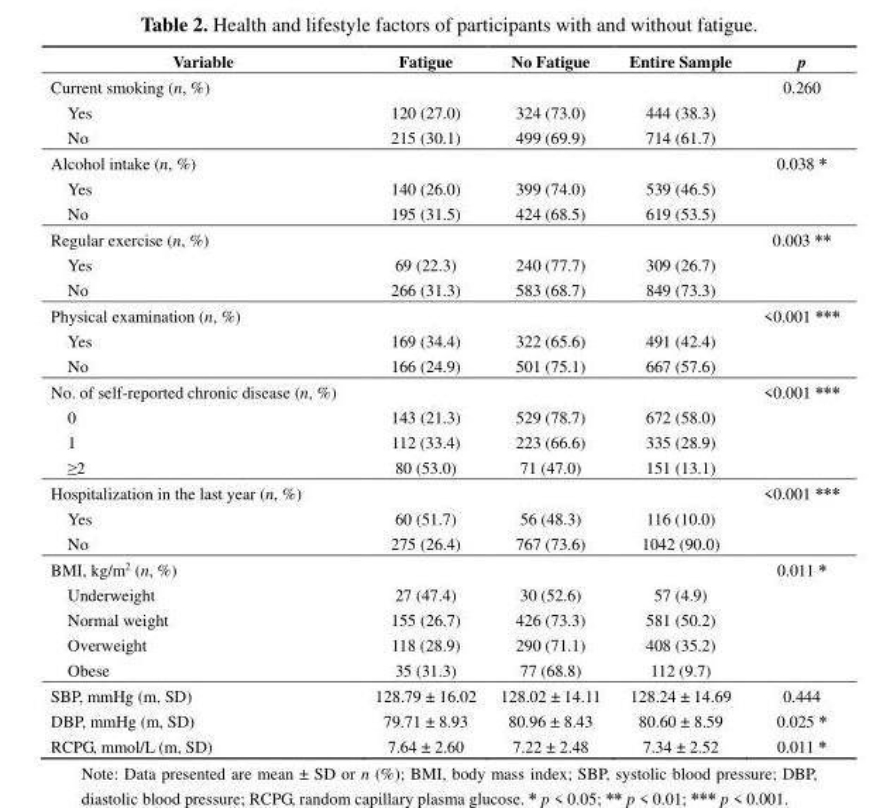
<table><thead><tr><td>Variable</td><td>Fatigue</td><td>No Fatigue</td><td>Entire Sample</td><td>p</td></tr></thead><tbody><tr><td>Current smoking (n, %)</td><td></td><td></td><td></td><td>0.260</td></tr><tr><td>Yes</td><td>120 (27.0)</td><td>324 (73.0)</td><td>444 (38.3)</td><td></td></tr><tr><td>No</td><td>215 (30.1)</td><td>499 (69.9)</td><td>714 (61.7)</td><td></td></tr><tr><td>Alcohol intake (n, %)</td><td></td><td></td><td></td><td>0.038 *</td></tr><tr><td>Yes</td><td>140 (26.0)</td><td>399 (74.0)</td><td>539 (46.5)</td><td></td></tr><tr><td>No</td><td>195 (31.5)</td><td>424 (68.5)</td><td>619 (53.5)</td><td></td></tr><tr><td>Regular exercise (n, %)</td><td></td><td></td><td></td><td>0.003 **</td></tr><tr><td>Yes</td><td>69 (22.3)</td><td>240 (77.7)</td><td>309 (26.7)</td><td></td></tr><tr><td>No</td><td>266 (31.3)</td><td>583 (68.7)</td><td>849 (73.3)</td><td></td></tr><tr><td>Physical examination (n, %)</td><td></td><td></td><td></td><td>&lt;0.001 ***</td></tr><tr><td>Yes</td><td>169 (34.4)</td><td>322 (65.6)</td><td>491 (42.4)</td><td></td></tr><tr><td>No</td><td>166 (24.9)</td><td>501 (75.1)</td><td>667 (57.6)</td><td></td></tr><tr><td>No. of self-reported chronic disease (n, %)</td><td></td><td></td><td></td><td>&lt;0.001 ***</td></tr><tr><td>0</td><td>143 (21.3)</td><td>529 (78.7)</td><td>672 (58.0)</td><td></td></tr><tr><td>1</td><td>112 (33.4)</td><td>223 (66.6)</td><td>335 (28.9)</td><td></td></tr><tr><td>≥2</td><td>80 (53.0)</td><td>71 (47.0)</td><td>151 (13.1)</td><td></td></tr><tr><td>Hospitalization in the last year (n, %)</td><td></td><td></td><td></td><td>&lt;0.001 ***</td></tr><tr><td>Yes</td><td>60 (51.7)</td><td>56 (48.3)</td><td>116 (10.0)</td><td></td></tr><tr><td>No</td><td>275 (26.4)</td><td>767 (73.6)</td><td>1042 (90.0)</td><td></td></tr><tr><td>BMI, kg/m<sup>2</sup> (n, %)</td><td></td><td></td><td></td><td>0.011 *</td></tr><tr><td>Underweight</td><td>27 (47.4)</td><td>30 (52.6)</td><td>57 (4.9)</td><td></td></tr><tr><td>Normal weight</td><td>155 (26.7)</td><td>426 (73.3)</td><td>581 (50.2)</td><td></td></tr><tr><td>Overweight</td><td>118 (28.9)</td><td>290 (71.1)</td><td>408 (35.2)</td><td></td></tr><tr><td>Obese</td><td>35 (31.3)</td><td>77 (68.8)</td><td>112 (9.7)</td><td></td></tr><tr><td>SBP, mmHg (m, SD)</td><td>128.79 ± 16.02</td><td>128.02 ± 14.11</td><td>128.24 ± 14.69</td><td>0.444</td></tr><tr><td>DBP, mmHg (m, SD)</td><td>79.71 ± 8.93</td><td>80.96 ± 8.43</td><td>80.60 ± 8.59</td><td>0.025 *</td></tr><tr><td>RCPG, mmol/L (m, SD)</td><td>7.64 ± 2.60</td><td>7.22 ± 2.48</td><td>7.34 ± 2.52</td><td>0.011 *</td></tr></tbody></table>